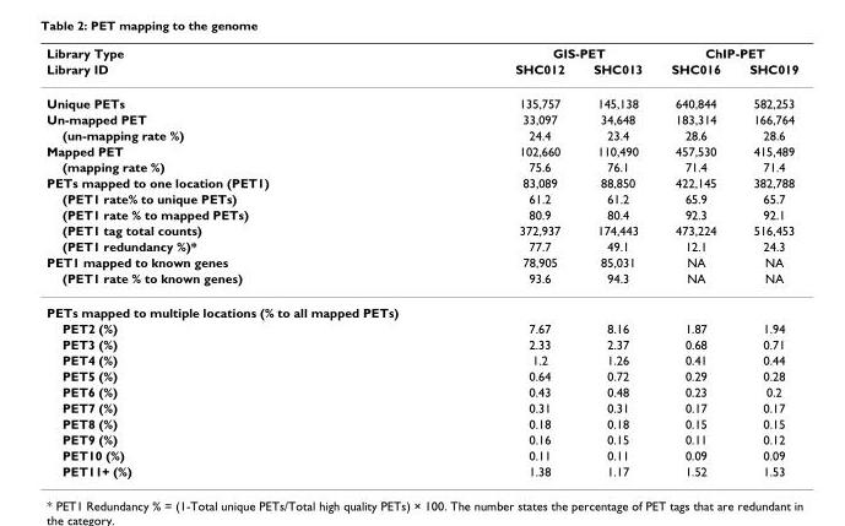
<table><thead><tr><td rowspan="2">Library Type Library ID</td><td colspan="2">GIS-PET</td><td colspan="2">ChIP-PET</td></tr><tr><td>SHC012</td><td>SHC013</td><td>SHC016</td><td>SHC019</td></tr></thead><tbody><tr><td>Unique PETs</td><td>135,757</td><td>145,138</td><td>640,844</td><td>582,253</td></tr><tr><td>Un-mapped PET</td><td>33,097</td><td>34,648</td><td>183,314</td><td>166,764</td></tr><tr><td>(un-mapping rate %)</td><td>24.4</td><td>23.4</td><td>28.6</td><td>28.6</td></tr><tr><td>Mapped PET</td><td>102,660</td><td>110,490</td><td>457,530</td><td>415,489</td></tr><tr><td>(mapping rate %)</td><td>75.6</td><td>76.1</td><td>71.4</td><td>71.4</td></tr><tr><td>PETs mapped to one location (PET1)</td><td>83,089</td><td>88,850</td><td>422,145</td><td>382,788</td></tr><tr><td>(PET1 rate% to unique PETs)</td><td>61.2</td><td>61.2</td><td>65.9</td><td>65.7</td></tr><tr><td>(PET1 rate % to mapped PETs)</td><td>80.9</td><td>80.4</td><td>92.3</td><td>92.1</td></tr><tr><td>(PET1 tag total counts)</td><td>372,937</td><td>174,443</td><td>473,224</td><td>516,453</td></tr><tr><td>(PET1 redundancy %)*</td><td>77.7</td><td>49.1</td><td>12.1</td><td>24.3</td></tr><tr><td>PET1 mapped to known genes</td><td>78,905</td><td>85,031</td><td>NA</td><td>NA</td></tr><tr><td>(PET1 rate % to known genes)</td><td>93.6</td><td>94.3</td><td>NA</td><td>NA</td></tr><tr><td colspan="5">PETs mapped to multiple locations (% to all mapped PETs)</td></tr><tr><td>PET2 (%)</td><td>7.67</td><td>8.16</td><td>1.87</td><td>1.94</td></tr><tr><td>PET3 (%)</td><td>2.33</td><td>2.37</td><td>0.68</td><td>0.71</td></tr><tr><td>PET4 (%)</td><td>1.2</td><td>1.26</td><td>0.41</td><td>0.44</td></tr><tr><td>PET5 (%)</td><td>0.64</td><td>0.72</td><td>0.29</td><td>0.28</td></tr><tr><td>PET6 (%)</td><td>0.43</td><td>0.48</td><td>0.23</td><td>0.2</td></tr><tr><td>PET7 (%)</td><td>0.31</td><td>0.31</td><td>0.17</td><td>0.17</td></tr><tr><td>PET8 (%)</td><td>0.18</td><td>0.18</td><td>0.15</td><td>0.15</td></tr><tr><td>PET9 (%)</td><td>0.16</td><td>0.15</td><td>0.11</td><td>0.12</td></tr><tr><td>PET10 (%)</td><td>0.11</td><td>0.11</td><td>0.09</td><td>0.09</td></tr><tr><td>PET11+ (%)</td><td>1.38</td><td>1.17</td><td>1.52</td><td>1.53</td></tr></tbody></table>